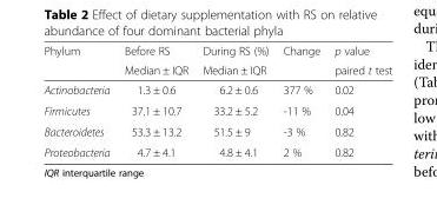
<table><thead><tr><td rowspan="2">Phylum</td><td rowspan="2">Before RS Median ± IQR</td><td rowspan="2">During RS (%) Median ± IQR</td><td rowspan="2">Change</td><td rowspan="2">p value paired t test</td></tr><tr></tr></thead><tbody><tr><td>Actinobacteria</td><td>1.3 ± 0.6</td><td>6.2 ± 0.6</td><td>377 %</td><td>0.02</td></tr><tr><td>Firmicutes</td><td>37.1 ± 10.7</td><td>33.2 ± 5.2</td><td>-11 %</td><td>0.04</td></tr><tr><td>Bacteroidetes</td><td>53.3 ± 13.2</td><td>51.5 ± 9</td><td>-3 %</td><td>0.82</td></tr><tr><td>Proteobacteria</td><td>4.7 ± 4.1</td><td>4.8 ± 4.1</td><td>2 %</td><td>0.82</td></tr></tbody></table>